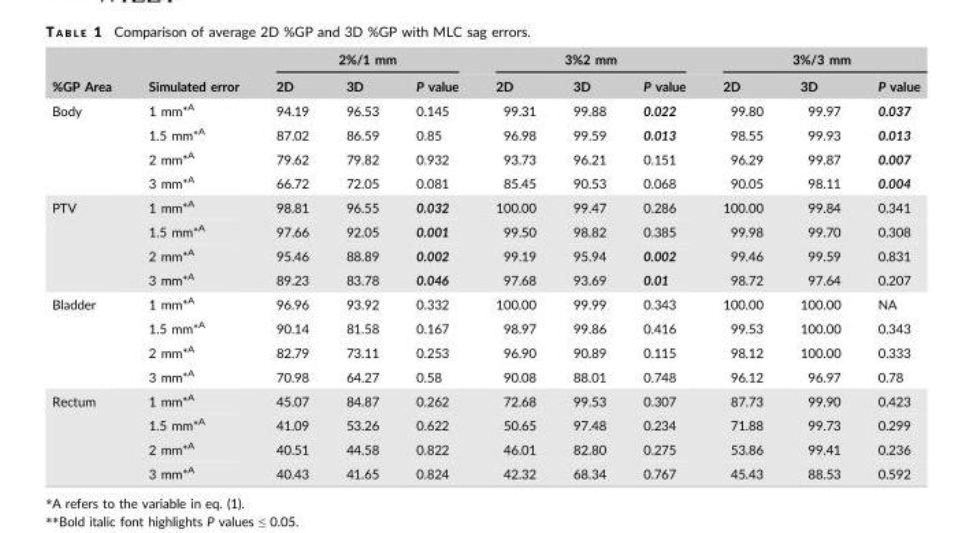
<table><thead><tr><td rowspan="2">%GP Area</td><td rowspan="2">Simulated error</td><td colspan="3">2%/1 mm</td><td colspan="3">3%2 mm</td><td colspan="3">3%/3 mm</td></tr><tr><td>2D</td><td>3D</td><td>P value</td><td>2D</td><td>3D</td><td>P value</td><td>2D</td><td>3D</td><td>P value</td></tr></thead><tbody><tr><td rowspan="4">Body</td><td>1 mm*<sup>A</sup></td><td>94.19</td><td>96.53</td><td>0.145</td><td>99.31</td><td>99.88</td><td>0.022</td><td>99.80</td><td>99.97</td><td>0.037</td></tr><tr><td>1.5 mm*<sup>A</sup></td><td>87.02</td><td>86.59</td><td>0.85</td><td>96.98</td><td>99.59</td><td>0.013</td><td>98.55</td><td>99.93</td><td>0.013</td></tr><tr><td>2 mm*<sup>A</sup></td><td>79.62</td><td>79.82</td><td>0.932</td><td>93.73</td><td>96.21</td><td>0.151</td><td>96.29</td><td>99.87</td><td>0.007</td></tr><tr><td>3 mm*<sup>A</sup></td><td>66.72</td><td>72.05</td><td>0.081</td><td>85.45</td><td>90.53</td><td>0.068</td><td>90.05</td><td>98.11</td><td>0.004</td></tr><tr><td rowspan="4">PTV</td><td>1 mm*<sup>A</sup></td><td>98.81</td><td>96.55</td><td>0.032</td><td>100.00</td><td>99.47</td><td>0.286</td><td>100.00</td><td>99.84</td><td>0.341</td></tr><tr><td>1.5 mm*<sup>A</sup></td><td>97.66</td><td>92.05</td><td>0.001</td><td>99.50</td><td>98.82</td><td>0.385</td><td>99.98</td><td>99.70</td><td>0.308</td></tr><tr><td>2 mm*<sup>A</sup></td><td>95.46</td><td>88.89</td><td>0.002</td><td>99.19</td><td>95.94</td><td>0.002</td><td>99.46</td><td>99.59</td><td>0.831</td></tr><tr><td>3 mm*<sup>A</sup></td><td>89.23</td><td>83.78</td><td>0.046</td><td>97.68</td><td>93.69</td><td>0.01</td><td>98.72</td><td>97.64</td><td>0.207</td></tr><tr><td rowspan="4">Bladder</td><td>1 mm*<sup>A</sup></td><td>96.96</td><td>93.92</td><td>0.332</td><td>100.00</td><td>99.99</td><td>0.343</td><td>100.00</td><td>100.00</td><td>NA</td></tr><tr><td>1.5 mm*<sup>A</sup></td><td>90.14</td><td>81.58</td><td>0.167</td><td>98.97</td><td>99.86</td><td>0.416</td><td>99.53</td><td>100.00</td><td>0.343</td></tr><tr><td>2 mm*<sup>A</sup></td><td>82.79</td><td>73.11</td><td>0.253</td><td>96.90</td><td>90.89</td><td>0.115</td><td>98.12</td><td>100.00</td><td>0.333</td></tr><tr><td>3 mm*<sup>A</sup></td><td>70.98</td><td>64.27</td><td>0.58</td><td>90.08</td><td>88.01</td><td>0.748</td><td>96.12</td><td>96.97</td><td>0.78</td></tr><tr><td rowspan="4">Rectum</td><td>1 mm*<sup>A</sup></td><td>45.07</td><td>84.87</td><td>0.262</td><td>72.68</td><td>99.53</td><td>0.307</td><td>87.73</td><td>99.90</td><td>0.423</td></tr><tr><td>1.5 mm*<sup>A</sup></td><td>41.09</td><td>53.26</td><td>0.622</td><td>50.65</td><td>97.48</td><td>0.234</td><td>71.88</td><td>99.73</td><td>0.299</td></tr><tr><td>2 mm*<sup>A</sup></td><td>40.51</td><td>44.58</td><td>0.822</td><td>46.01</td><td>82.80</td><td>0.275</td><td>53.86</td><td>99.41</td><td>0.236</td></tr><tr><td>3 mm*<sup>A</sup></td><td>40.43</td><td>41.65</td><td>0.824</td><td>42.32</td><td>68.34</td><td>0.767</td><td>45.43</td><td>88.53</td><td>0.592</td></tr></tbody></table>